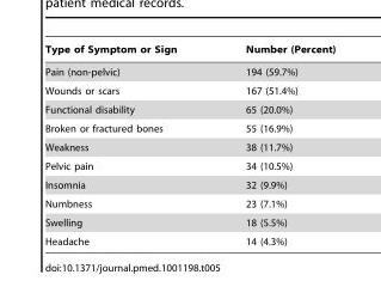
<table><thead><tr><td>Type of Symptom or Sign</td><td>Number (Percent)</td></tr></thead><tbody><tr><td>Pain (non-pelvic)</td><td>194 (59.7%)</td></tr><tr><td>Wounds or scars</td><td>167 (51.4%)</td></tr><tr><td>Functional disability</td><td>65 (20.0%)</td></tr><tr><td>Broken or fractured bones</td><td>55 (16.9%)</td></tr><tr><td>Weakness</td><td>38 (11.7%)</td></tr><tr><td>Pelvic pain</td><td>34 (10.5%)</td></tr><tr><td>Insomnia</td><td>32 (9.9%)</td></tr><tr><td>Numbness</td><td>23 (7.1%)</td></tr><tr><td>Swelling</td><td>18 (5.5%)</td></tr><tr><td>Headache</td><td>14 (4.3%)</td></tr></tbody></table>